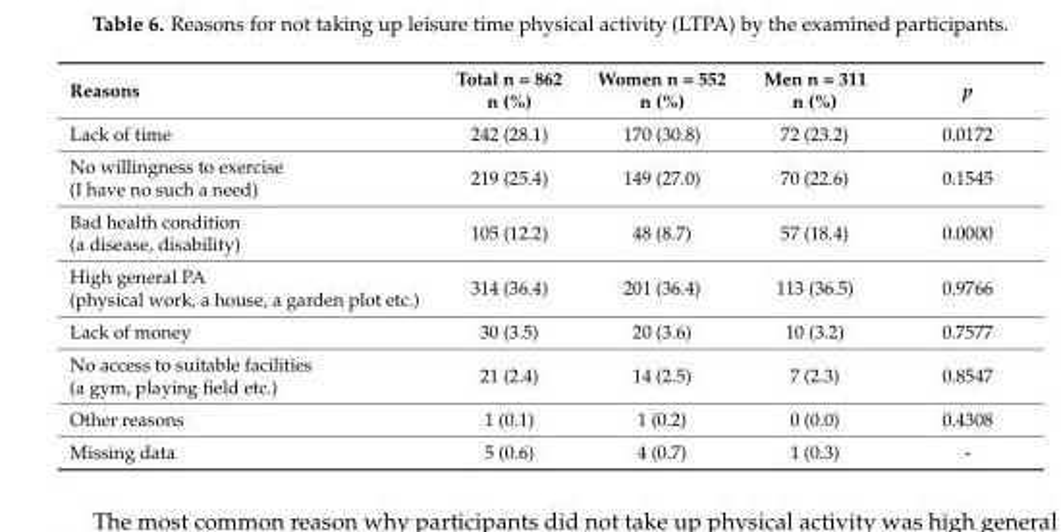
<table><thead><tr><td>Reasons</td><td>Total n = 862 n (%)</td><td>Women n = 552 n (%)</td><td>Men n = 311 n (%)</td><td>p</td></tr></thead><tbody><tr><td>Lack of time</td><td>242 (28.1)</td><td>170 (30.8)</td><td>72 (23.2)</td><td>0.0172</td></tr><tr><td>No willingness to exercise (I have no such a need)</td><td>219 (25.4)</td><td>149 (27.0)</td><td>70 (22.6)</td><td>0.1545</td></tr><tr><td>Bad health condition (a disease, disability)</td><td>105 (12.2)</td><td>48 (8.7)</td><td>57 (18.4)</td><td>0.0000</td></tr><tr><td>High general PA (physical work, a house, a garden plot etc.)</td><td>314 (36.4)</td><td>201 (36.4)</td><td>113 (36.5)</td><td>0.9766</td></tr><tr><td>Lack of money</td><td>30 (3.5)</td><td>20 (3.6)</td><td>10 (3.2)</td><td>0.7577</td></tr><tr><td>No access to suitable facilities (a gym, playing field etc.)</td><td>21 (2.4)</td><td>14 (2.5)</td><td>7 (2.3)</td><td>0.8547</td></tr><tr><td>Other reasons</td><td>1 (0.1)</td><td>1 (0.2)</td><td>0 (0.0)</td><td>0.4308</td></tr><tr><td>Missing data</td><td>5 (0.6)</td><td>4 (0.7)</td><td>1 (0.3)</td><td>-</td></tr></tbody></table>